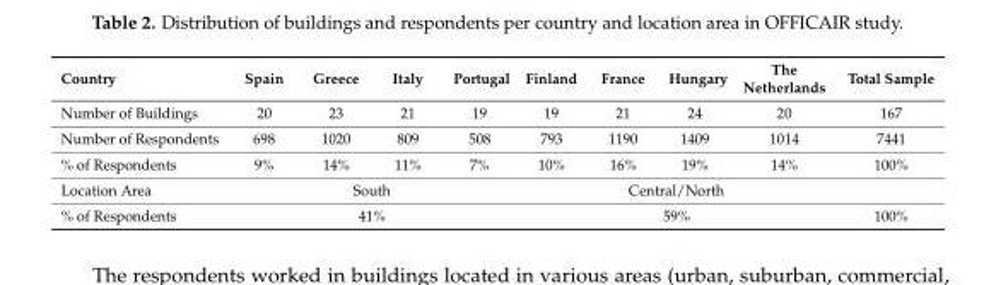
<table><thead><tr><td>Country</td><td>Spain</td><td>Greece</td><td>Italy</td><td>Portugal</td><td>Finland</td><td>France</td><td>Hungary</td><td>The Netherlands</td><td>Total Sample</td></tr></thead><tbody><tr><td>Number of Buildings</td><td>20</td><td>23</td><td>21</td><td>19</td><td>19</td><td>21</td><td>24</td><td>20</td><td>167</td></tr><tr><td>Number of Respondents</td><td>698</td><td>1020</td><td>809</td><td>508</td><td>793</td><td>1190</td><td>1409</td><td>1014</td><td>7441</td></tr><tr><td>% of Respondents</td><td>9%</td><td>14%</td><td>11%</td><td>7%</td><td>10%</td><td>16%</td><td>19%</td><td>14%</td><td>100%</td></tr><tr><td>Location Area</td><td colspan="4">South</td><td colspan="4">Central/North</td><td></td></tr><tr><td>% of Respondents</td><td colspan="4">41%</td><td colspan="4">59%</td><td>100%</td></tr></tbody></table>